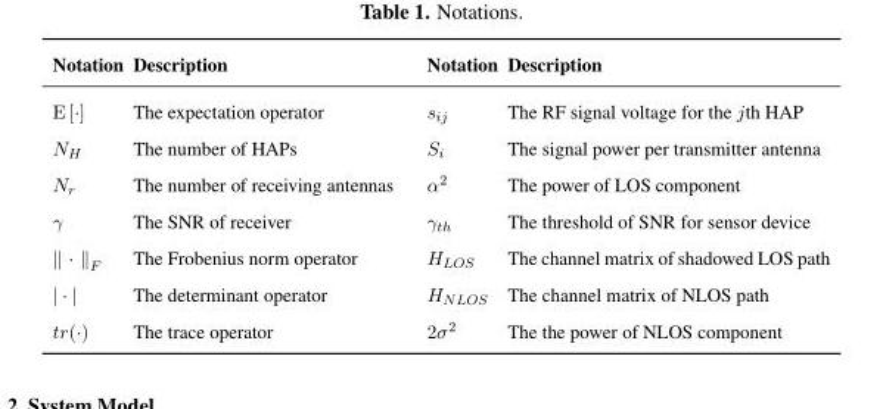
<table><thead><tr><td>Notation</td><td>Description</td><td>Notation</td><td>Description</td></tr></thead><tbody><tr><td>E [·]</td><td>The expectation operator</td><td>s<sub>ij</sub></td><td>The RF signal voltage for the jth HAP</td></tr><tr><td>N<sub>H</sub></td><td>The number of HAPs</td><td>S<sub>i</sub></td><td>The signal power per transmitter antenna</td></tr><tr><td>N<sub>r</sub></td><td>The number of receiving antennas</td><td>α<sup>2</sup></td><td>The power of LOS component</td></tr><tr><td>γ</td><td>The SNR of receiver</td><td>γ<sub>th</sub></td><td>The threshold of SNR for sensor device</td></tr><tr><td>∥ · ∥F</td><td>The Frobenius norm operator</td><td>H<sub>LOS</sub></td><td>The channel matrix of shadowed LOS path</td></tr><tr><td>| · |</td><td>The determinant operator</td><td>H<sub>NLOS</sub></td><td>The channel matrix of NLOS path</td></tr><tr><td>tr(·)</td><td>The trace operator</td><td>2σ<sup>2</sup></td><td>The the power of NLOS component</td></tr></tbody></table>